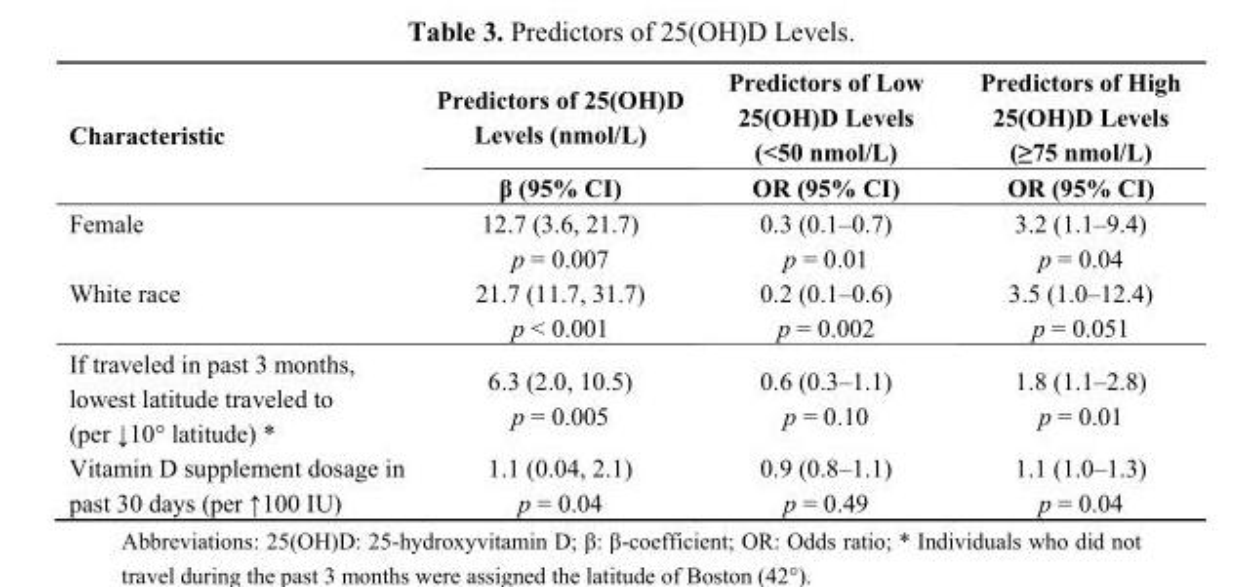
<table><thead><tr><td rowspan="2">Characteristic</td><td rowspan="2">Predictors of 25(OH)D Levels (nmol/L) β (95% CI)</td><td rowspan="2">Predictors of Low 25(OH)D Levels (&lt;50 nmol/L) OR (95% CI)</td><td rowspan="2">Predictors of High 25(OH)D Levels (≥75 nmol/L) OR (95% CI)</td></tr><tr></tr></thead><tbody><tr><td>Female</td><td>12.7 (3.6, 21.7) p = 0.007</td><td>0.3 (0.1–0.7) p = 0.01</td><td>3.2 (1.1–9.4) p = 0.04</td></tr><tr><td>White race</td><td>21.7 (11.7, 31.7) p &lt; 0.001</td><td>0.2 (0.1–0.6) p = 0.002</td><td>3.5 (1.0–12.4) p = 0.051</td></tr><tr><td>If traveled in past 3 months, lowest latitude traveled to (per ↓10° latitude) *</td><td>6.3 (2.0, 10.5) p = 0.005</td><td>0.6 (0.3–1.1) p = 0.10</td><td>1.8 (1.1–2.8) p = 0.01</td></tr><tr><td>Vitamin D supplement dosage in past 30 days (per ↑100 IU)</td><td>1.1 (0.04, 2.1) p = 0.04</td><td>0.9 (0.8–1.1) p = 0.49</td><td>1.1 (1.0–1.3) p = 0.04</td></tr></tbody></table>